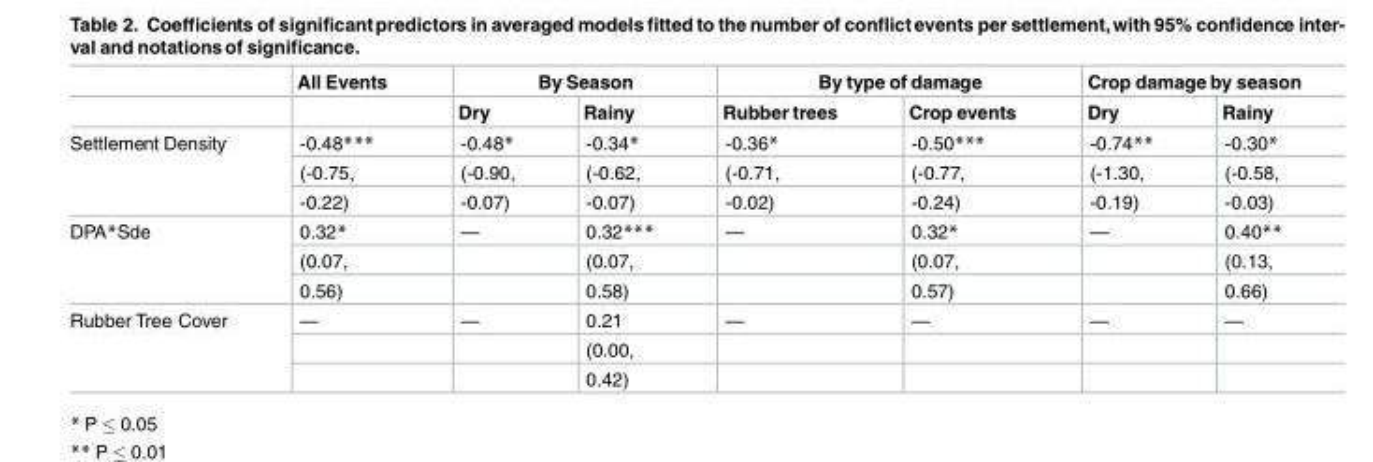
<table><thead><tr><td rowspan="2"></td><td rowspan="2">All Events</td><td colspan="2">By Season</td><td colspan="2">By type of damage</td><td colspan="2">Crop damage by season</td></tr><tr><td>Dry</td><td>Rainy</td><td>Rubber trees</td><td>Crop events</td><td>Dry</td><td>Rainy</td></tr></thead><tbody><tr><td rowspan="3">Settlement Density</td><td>-0.48***</td><td>-0.48*</td><td>-0.34*</td><td>-0.36*</td><td>-0.50***</td><td>-0.74**</td><td>-0.30*</td></tr><tr><td>(-0.75,</td><td>(-0.90,</td><td>(-0.62,</td><td>(-0.71,</td><td>(-0.77,</td><td>(-1.30,</td><td>(-0.58,</td></tr><tr><td>-0.22)</td><td>-0.07)</td><td>-0.07)</td><td>-0.02)</td><td>-0.24)</td><td>-0.19)</td><td>-0.03)</td></tr><tr><td rowspan="3">DPA*Sde</td><td>0.32*</td><td>—</td><td>0.32***</td><td>—</td><td>0.32*</td><td>—</td><td>0.40**</td></tr><tr><td>(0.07,</td><td></td><td>(0.07,</td><td></td><td>(0.07,</td><td></td><td>(0.13,</td></tr><tr><td>0.56)</td><td></td><td>0.58)</td><td></td><td>0.57)</td><td></td><td>0.66)</td></tr><tr><td rowspan="3">Rubber Tree Cover</td><td>—</td><td>—</td><td>0.21</td><td>—</td><td>—</td><td>—</td><td>—</td></tr><tr><td></td><td></td><td>(0.00,</td><td></td><td></td><td></td><td></td></tr><tr><td></td><td></td><td>0.42)</td><td></td><td></td><td></td><td></td></tr></tbody></table>